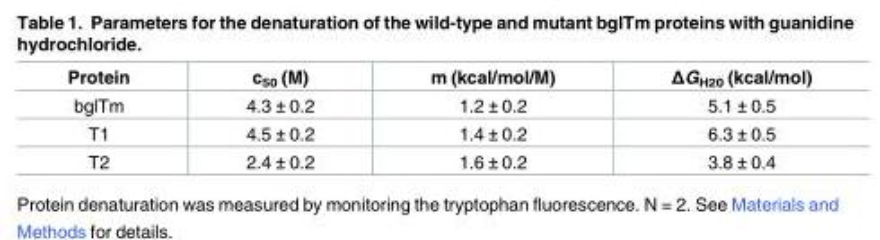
<table><thead><tr><td>Protein</td><td>c<sub>50</sub> (M)</td><td>m (kcal/mol/M)</td><td>ΔG<sub>H20</sub> (kcal/mol)</td></tr></thead><tbody><tr><td>bglTm</td><td>4.3 ± 0.2</td><td>1.2 ± 0.2</td><td>5.1 ± 0.5</td></tr><tr><td>T1</td><td>4.5 ± 0.2</td><td>1.4 ± 0.2</td><td>6.3 ± 0.5</td></tr><tr><td>T2</td><td>2.4 ± 0.2</td><td>1.6 ± 0.2</td><td>3.8 ± 0.4</td></tr></tbody></table>